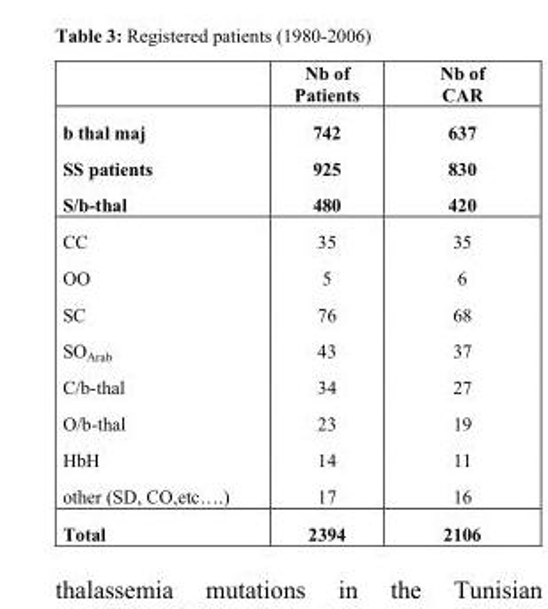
<table><thead><tr><td></td><td>Nb of Patients</td><td>Nb of CAR</td></tr></thead><tbody><tr><td>b thal maj</td><td>742</td><td>637</td></tr><tr><td>SS patients</td><td>925</td><td>830</td></tr><tr><td>S/b-thal</td><td>480</td><td>420</td></tr><tr><td>CC</td><td>35</td><td>35</td></tr><tr><td>OO</td><td>5</td><td>6</td></tr><tr><td>SC</td><td>76</td><td>68</td></tr><tr><td>SO<sub>Arab</sub></td><td>43</td><td>37</td></tr><tr><td>C/b-thal</td><td>34</td><td>27</td></tr><tr><td>O/b-thal</td><td>23</td><td>19</td></tr><tr><td>HbH</td><td>14</td><td>11</td></tr><tr><td>other (SD, CO,etc….)</td><td>17</td><td>16</td></tr><tr><td>Total</td><td>2394</td><td>2106</td></tr></tbody></table>